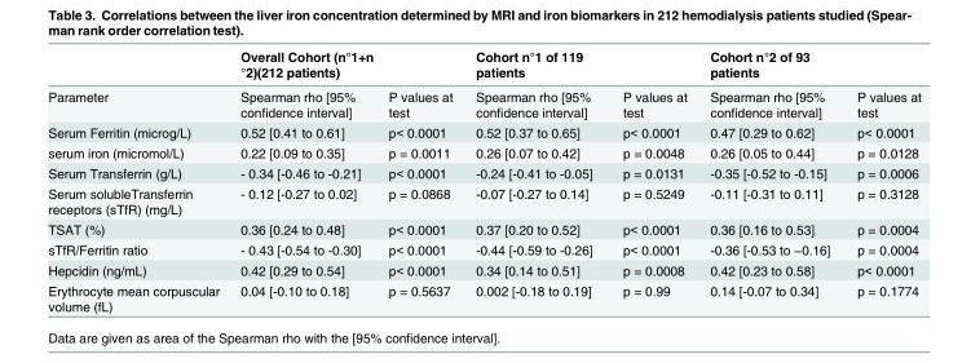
<table><thead><tr><td></td><td>Overall Cohort (n°1+n °2)(212 patients)</td><td></td><td>Cohort n°1 of 119 patients</td><td></td><td>Cohort n°2 of 93 patients</td><td></td></tr></thead><tbody><tr><td>Parameter</td><td>Spearman rho [95% confidence interval]</td><td>P values at test</td><td>Spearman rho [95% confidence interval]</td><td>P values at test</td><td>Spearman rho [95% confidence interval]</td><td>P values at test</td></tr><tr><td>Serum Ferritin (microg/L)</td><td>0.52 [0.41 to 0.61]</td><td>p&lt; 0.0001</td><td>0.52 [0.37 to 0.65]</td><td>p&lt; 0.0001</td><td>0.47 [0.29 to 0.62]</td><td>p&lt; 0.0001</td></tr><tr><td>serum iron (micromol/L)</td><td>0.22 [0.09 to 0.35]</td><td>p = 0.0011</td><td>0.26 [0.07 to 0.42]</td><td>p = 0.0048</td><td>0.26 [0.05 to 0.44]</td><td>p = 0.0128</td></tr><tr><td>Serum Transferrin (g/L)</td><td>- 0.34 [-0.46 to -0.21]</td><td>p&lt; 0.0001</td><td>-0.24 [-0.41 to -0.05]</td><td>p = 0.0131</td><td>-0.35 [-0.52 to -0.15]</td><td>p = 0.0006</td></tr><tr><td>Serum solubleTransferrin receptors (sTfR) (mg/L)</td><td>- 0.12 [-0.27 to 0.02]</td><td>p = 0.0868</td><td>-0.07 [-0.27 to 0.14]</td><td>p = 0.5249</td><td>-0.11 [-0.31 to 0.11]</td><td>p = 0.3128</td></tr><tr><td>TSAT (%)</td><td>0.36 [0.24 to 0.48]</td><td>p&lt; 0.0001</td><td>0.37 [0.20 to 0.52]</td><td>p&lt; 0.0001</td><td>0.36 [0.16 to 0.53]</td><td>p = 0.0004</td></tr><tr><td>sTfR/Ferritin ratio</td><td>- 0.43 [-0.54 to -0.30]</td><td>p&lt; 0.0001</td><td>-0.44 [-0.59 to -0.26]</td><td>p&lt; 0.0001</td><td>-0.36 [-0.53 to −0.16]</td><td>p = 0.0004</td></tr><tr><td>Hepcidin (ng/mL)</td><td>0.42 [0.29 to 0.54]</td><td>p&lt; 0.0001</td><td>0.34 [0.14 to 0.51]</td><td>p = 0.0008</td><td>0.42 [0.23 to 0.58]</td><td>p&lt; 0.0001</td></tr><tr><td>Erythrocyte mean corpuscular volume (fL)</td><td>0.04 [-0.10 to 0.18]</td><td>p = 0.5637</td><td>0.002 [-0.18 to 0.19]</td><td>p = 0.99</td><td>0.14 [-0.07 to 0.34]</td><td>p = 0.1774</td></tr></tbody></table>